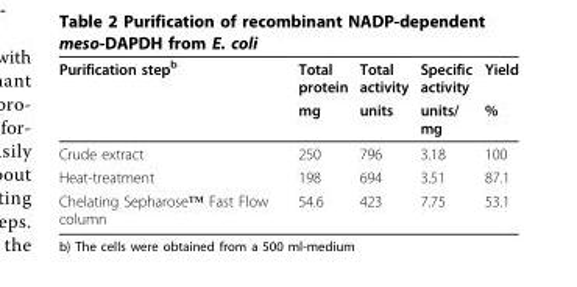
<table><thead><tr><td rowspan="2">Purification step<sup>b</sup></td><td rowspan="2">Total protein mg</td><td rowspan="2">Total activity units</td><td rowspan="2">Specific activity units/ mg</td><td rowspan="2">Yield %</td></tr><tr></tr></thead><tbody><tr><td>Crude extract</td><td>250</td><td>796</td><td>3.18</td><td>100</td></tr><tr><td>Heat-treatment</td><td>198</td><td>694</td><td>3.51</td><td>87.1</td></tr><tr><td>Chelating Sepharose™ Fast Flow column</td><td>54.6</td><td>423</td><td>7.75</td><td>53.1</td></tr></tbody></table>